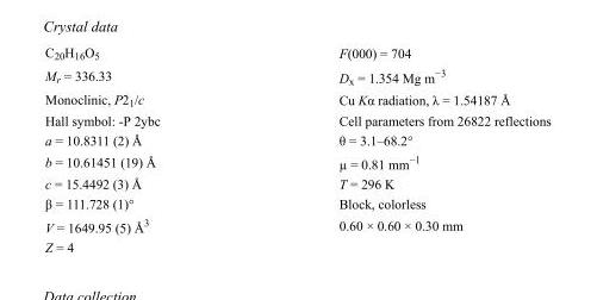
<table><tbody><tr><td>C<sub>20</sub>H<sub>16</sub>O<sub>5</sub></td><td>F(000) = 704</td></tr><tr><td>M<sub>r</sub> = 336.33</td><td>D<sub>x</sub> = 1.354 Mg m<sup>−3</sup></td></tr><tr><td>Monoclinic, P2<sub>1</sub>/c</td><td>Cu Kα radiation, λ = 1.54187 Å</td></tr><tr><td>Hall symbol: -P 2ybc</td><td>Cell parameters from 26822 reflections</td></tr><tr><td>a = 10.8311 (2) Å</td><td>θ = 3.1–68.2°</td></tr><tr><td>b = 10.61451 (19) Å</td><td>µ = 0.81 mm<sup>−1</sup></td></tr><tr><td>c = 15.4492 (3) Å</td><td>T = 296 K</td></tr><tr><td>β = 111.728 (1)°</td><td>Block, colorless</td></tr><tr><td>V = 1649.95 (5) Å<sup>3</sup></td><td>0.60 × 0.60 × 0.30 mm</td></tr><tr><td>Z = 4</td><td></td></tr></tbody></table>